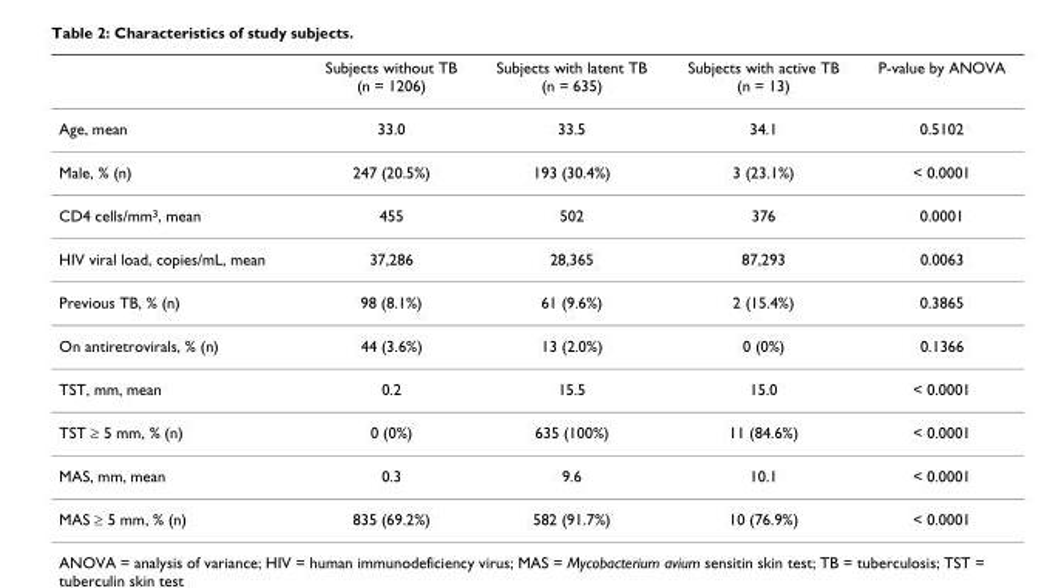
<table><thead><tr><td></td><td>Subjects without TB (n = 1206)</td><td>Subjects with latent TB (n = 635)</td><td>Subjects with active TB (n = 13)</td><td>P-value by ANOVA</td></tr></thead><tbody><tr><td>Age, mean</td><td>33.0</td><td>33.5</td><td>34.1</td><td>0.5102</td></tr><tr><td>Male, % (n)</td><td>247 (20.5%)</td><td>193 (30.4%)</td><td>3 (23.1%)</td><td>&lt; 0.0001</td></tr><tr><td>CD4 cells/mm<sup>3</sup>, mean</td><td>455</td><td>502</td><td>376</td><td>0.0001</td></tr><tr><td>HIV viral load, copies/mL, mean</td><td>37,286</td><td>28,365</td><td>87,293</td><td>0.0063</td></tr><tr><td>Previous TB, % (n)</td><td>98 (8.1%)</td><td>61 (9.6%)</td><td>2 (15.4%)</td><td>0.3865</td></tr><tr><td>On antiretrovirals, % (n)</td><td>44 (3.6%)</td><td>13 (2.0%)</td><td>0 (0%)</td><td>0.1366</td></tr><tr><td>TST, mm, mean</td><td>0.2</td><td>15.5</td><td>15.0</td><td>&lt; 0.0001</td></tr><tr><td>TST ≥ 5 mm, % (n)</td><td>0 (0%)</td><td>635 (100%)</td><td>11 (84.6%)</td><td>&lt; 0.0001</td></tr><tr><td>MAS, mm, mean</td><td>0.3</td><td>9.6</td><td>10.1</td><td>&lt; 0.0001</td></tr><tr><td>MAS ≥ 5 mm, % (n)</td><td>835 (69.2%)</td><td>582 (91.7%)</td><td>10 (76.9%)</td><td>&lt; 0.0001</td></tr></tbody></table>